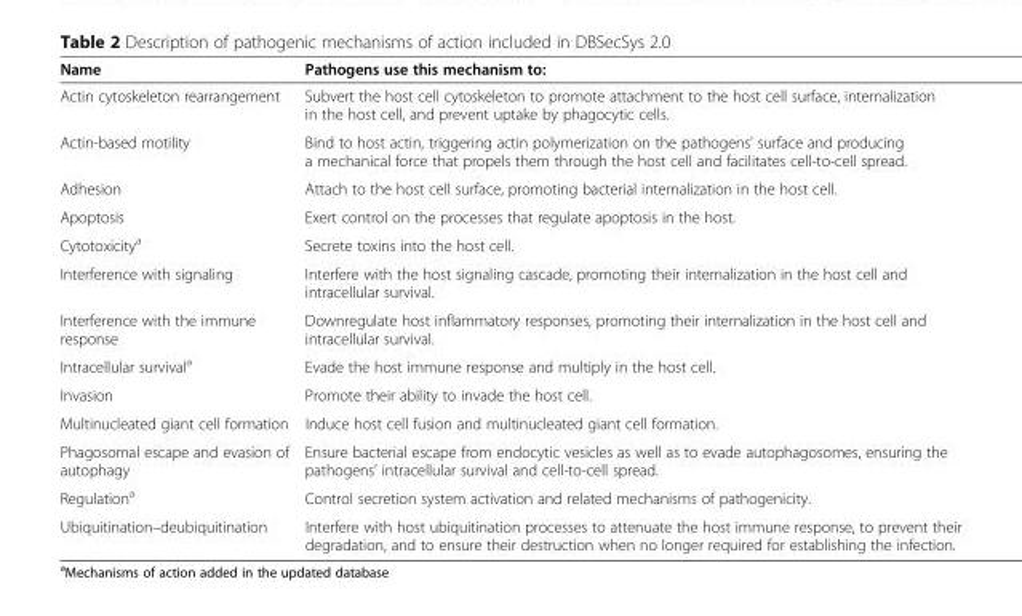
<table><thead><tr><td>Name</td><td>Pathogens use this mechanism to:</td></tr></thead><tbody><tr><td>Actin cytoskeleton rearrangement</td><td>Subvert the host cell cytoskeleton to promote attachment to the host cell surface, internalization in the host cell, and prevent uptake by phagocytic cells.</td></tr><tr><td>Actin-based motility</td><td>Bind to host actin, triggering actin polymerization on the pathogens’ surface and producing a mechanical force that propels them through the host cell and facilitates cell-to-cell spread.</td></tr><tr><td>Adhesion</td><td>Attach to the host cell surface, promoting bacterial internalization in the host cell.</td></tr><tr><td>Apoptosis</td><td>Exert control on the processes that regulate apoptosis in the host.</td></tr><tr><td>Cytotoxicity<sup>a</sup></td><td>Secrete toxins into the host cell.</td></tr><tr><td>Interference with signaling</td><td>Interfere with the host signaling cascade, promoting their internalization in the host cell and intracellular survival.</td></tr><tr><td>Interference with the immune response</td><td>Downregulate host inflammatory responses, promoting their internalization in the host cell and intracellular survival.</td></tr><tr><td>Intracellular survival<sup>a</sup></td><td>Evade the host immune response and multiply in the host cell.</td></tr><tr><td>Invasion</td><td>Promote their ability to invade the host cell.</td></tr><tr><td>Multinucleated giant cell formation</td><td>Induce host cell fusion and multinucleated giant cell formation.</td></tr><tr><td>Phagosomal escape and evasion of autophagy</td><td>Ensure bacterial escape from endocytic vesicles as well as to evade autophagosomes, ensuring the pathogens’ intracellular survival and cell-to-cell spread.</td></tr><tr><td>Regulation<sup>a</sup></td><td>Control secretion system activation and related mechanisms of pathogenicity.</td></tr><tr><td>Ubiquitination–deubiquitination</td><td>Interfere with host ubiquitination processes to attenuate the host immune response, to prevent their degradation, and to ensure their destruction when no longer required for establishing the infection.</td></tr></tbody></table>